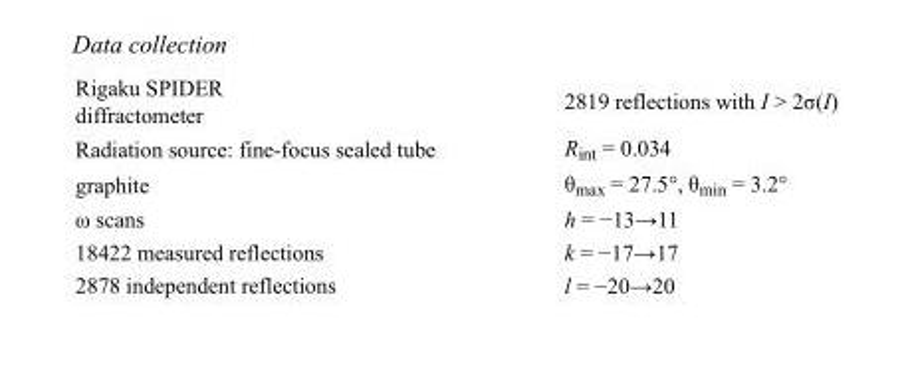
<table><tbody><tr><td>Rigaku SPIDER diffractometer</td><td>2819 reflections with I &gt; 2σ(I)</td></tr><tr><td>Radiation source: fine-focus sealed tube</td><td>R<sub>int</sub> = 0.034</td></tr><tr><td>graphite</td><td>θ<sub>max</sub> = 27.5°, θ<sub>min</sub> = 3.2°</td></tr><tr><td>ω scans</td><td>h = −13→11</td></tr><tr><td>18422 measured reflections</td><td>k = −17→17</td></tr><tr><td>2878 independent reflections</td><td>l = −20→20</td></tr></tbody></table>